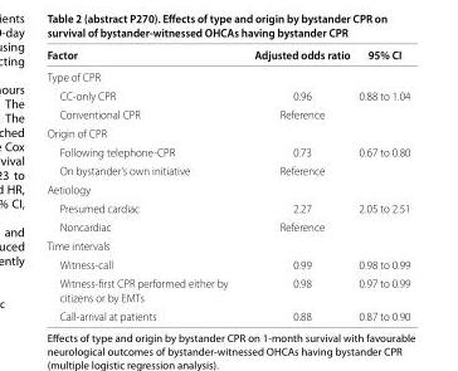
<table><thead><tr><td>Factor</td><td>Adjusted odds ratio</td><td>95% CI</td></tr></thead><tbody><tr><td colspan="3">Type of CPR</td></tr><tr><td>CC-only CPR</td><td>0.96</td><td>0.88 to 1.04</td></tr><tr><td>Conventional CPR</td><td>Reference</td><td></td></tr><tr><td colspan="3">Origin of CPR</td></tr><tr><td>Following telephone-CPR</td><td>0.73</td><td>0.67 to 0.80</td></tr><tr><td>On bystander’s own initiative</td><td>Reference</td><td></td></tr><tr><td colspan="3">Aetiology</td></tr><tr><td>Presumed cardiac</td><td>2.27</td><td>2.05 to 2.51</td></tr><tr><td>Noncardiac</td><td>Reference</td><td></td></tr><tr><td colspan="3">Time intervals</td></tr><tr><td>Witness-call</td><td>0.99</td><td>0.98 to 0.99</td></tr><tr><td>Witness-fi rst CPR performed either by</td><td>0.98</td><td>0.97 to 0.99</td></tr><tr><td colspan="3">citizens or by EMTs</td></tr><tr><td>Call-arrival at patients</td><td>0.88</td><td>0.87 to 0.90</td></tr></tbody></table>